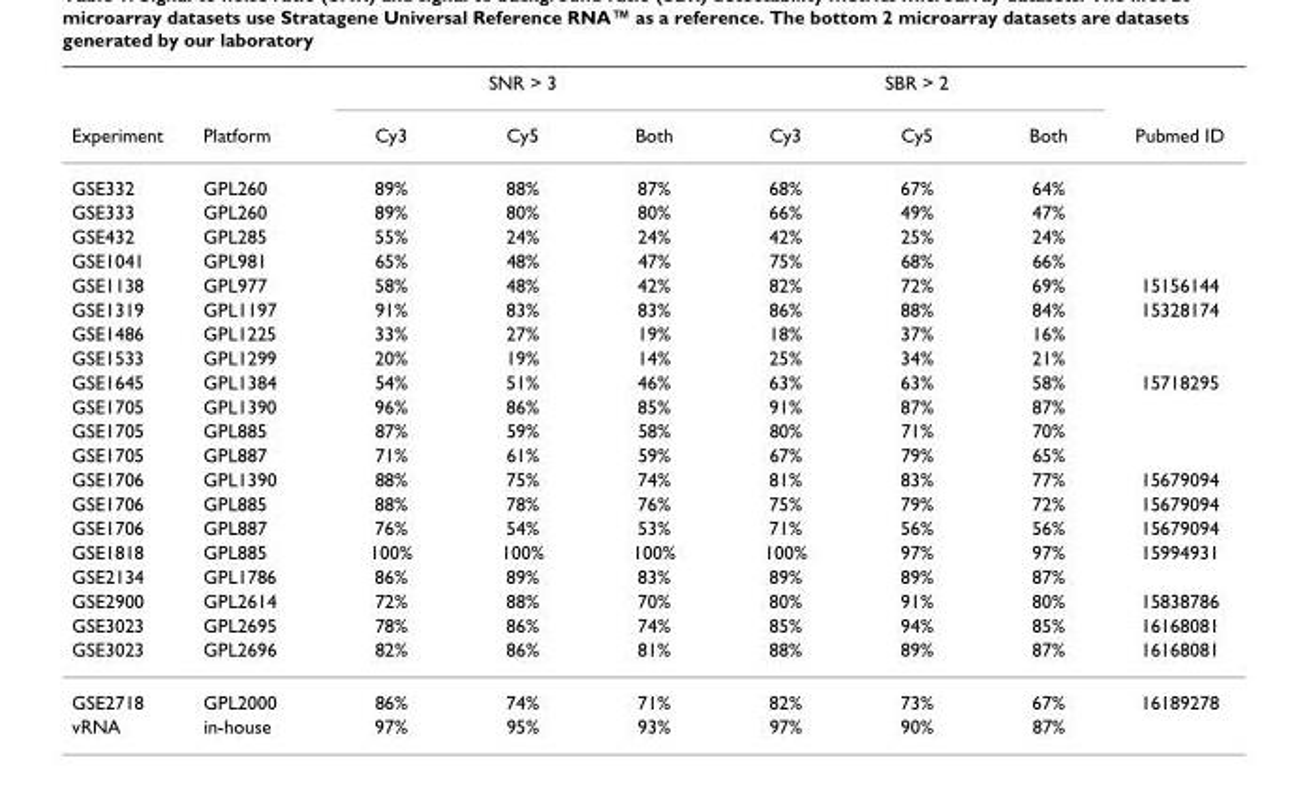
<table><thead><tr><td rowspan="2">Experiment</td><td rowspan="2">Platform</td><td colspan="3">SNR &gt; 3</td><td colspan="3">SBR &gt; 2</td><td rowspan="2">Pubmed ID</td></tr><tr><td>Cy3</td><td>Cy5</td><td>Both</td><td>Cy3</td><td>Cy5</td><td>Both</td></tr></thead><tbody><tr><td>GSE332</td><td>GPL260</td><td>89%</td><td>88%</td><td>87%</td><td>68%</td><td>67%</td><td>64%</td><td></td></tr><tr><td>GSE333</td><td>GPL260</td><td>89%</td><td>80%</td><td>80%</td><td>66%</td><td>49%</td><td>47%</td><td></td></tr><tr><td>GSE432</td><td>GPL285</td><td>55%</td><td>24%</td><td>24%</td><td>42%</td><td>25%</td><td>24%</td><td></td></tr><tr><td>GSE1041</td><td>GPL981</td><td>65%</td><td>48%</td><td>47%</td><td>75%</td><td>68%</td><td>66%</td><td></td></tr><tr><td>GSE1138</td><td>GPL977</td><td>58%</td><td>48%</td><td>42%</td><td>82%</td><td>72%</td><td>69%</td><td>15156144</td></tr><tr><td>GSE1319</td><td>GPL1197</td><td>91%</td><td>83%</td><td>83%</td><td>86%</td><td>88%</td><td>84%</td><td>15328174</td></tr><tr><td>GSE1486</td><td>GPL1225</td><td>33%</td><td>27%</td><td>19%</td><td>18%</td><td>37%</td><td>16%</td><td></td></tr><tr><td>GSE1533</td><td>GPL1299</td><td>20%</td><td>19%</td><td>14%</td><td>25%</td><td>34%</td><td>21%</td><td></td></tr><tr><td>GSE1645</td><td>GPL1384</td><td>54%</td><td>51%</td><td>46%</td><td>63%</td><td>63%</td><td>58%</td><td>15718295</td></tr><tr><td>GSE1705</td><td>GPL1390</td><td>96%</td><td>86%</td><td>85%</td><td>91%</td><td>87%</td><td>87%</td><td></td></tr><tr><td>GSE1705</td><td>GPL885</td><td>87%</td><td>59%</td><td>58%</td><td>80%</td><td>71%</td><td>70%</td><td></td></tr><tr><td>GSE1705</td><td>GPL887</td><td>71%</td><td>61%</td><td>59%</td><td>67%</td><td>79%</td><td>65%</td><td></td></tr><tr><td>GSE1706</td><td>GPL1390</td><td>88%</td><td>75%</td><td>74%</td><td>81%</td><td>83%</td><td>77%</td><td>15679094</td></tr><tr><td>GSE1706</td><td>GPL885</td><td>88%</td><td>78%</td><td>76%</td><td>75%</td><td>79%</td><td>72%</td><td>15679094</td></tr><tr><td>GSE1706</td><td>GPL887</td><td>76%</td><td>54%</td><td>53%</td><td>71%</td><td>56%</td><td>56%</td><td>15679094</td></tr><tr><td>GSE1818</td><td>GPL885</td><td>100%</td><td>100%</td><td>100%</td><td>100%</td><td>97%</td><td>97%</td><td>15994931</td></tr><tr><td>GSE2134</td><td>GPL1786</td><td>86%</td><td>89%</td><td>83%</td><td>89%</td><td>89%</td><td>87%</td><td></td></tr><tr><td>GSE2900</td><td>GPL2614</td><td>72%</td><td>88%</td><td>70%</td><td>80%</td><td>91%</td><td>80%</td><td>15838786</td></tr><tr><td>GSE3023</td><td>GPL2695</td><td>78%</td><td>86%</td><td>74%</td><td>85%</td><td>94%</td><td>85%</td><td>16168081</td></tr><tr><td>GSE3023</td><td>GPL2696</td><td>82%</td><td>86%</td><td>81%</td><td>88%</td><td>89%</td><td>87%</td><td>16168081</td></tr><tr><td>GSE2718</td><td>GPL2000</td><td>86%</td><td>74%</td><td>71%</td><td>82%</td><td>73%</td><td>67%</td><td>16189278</td></tr><tr><td>vRNA</td><td>in-house</td><td>97%</td><td>95%</td><td>93%</td><td>97%</td><td>90%</td><td>87%</td><td></td></tr></tbody></table>